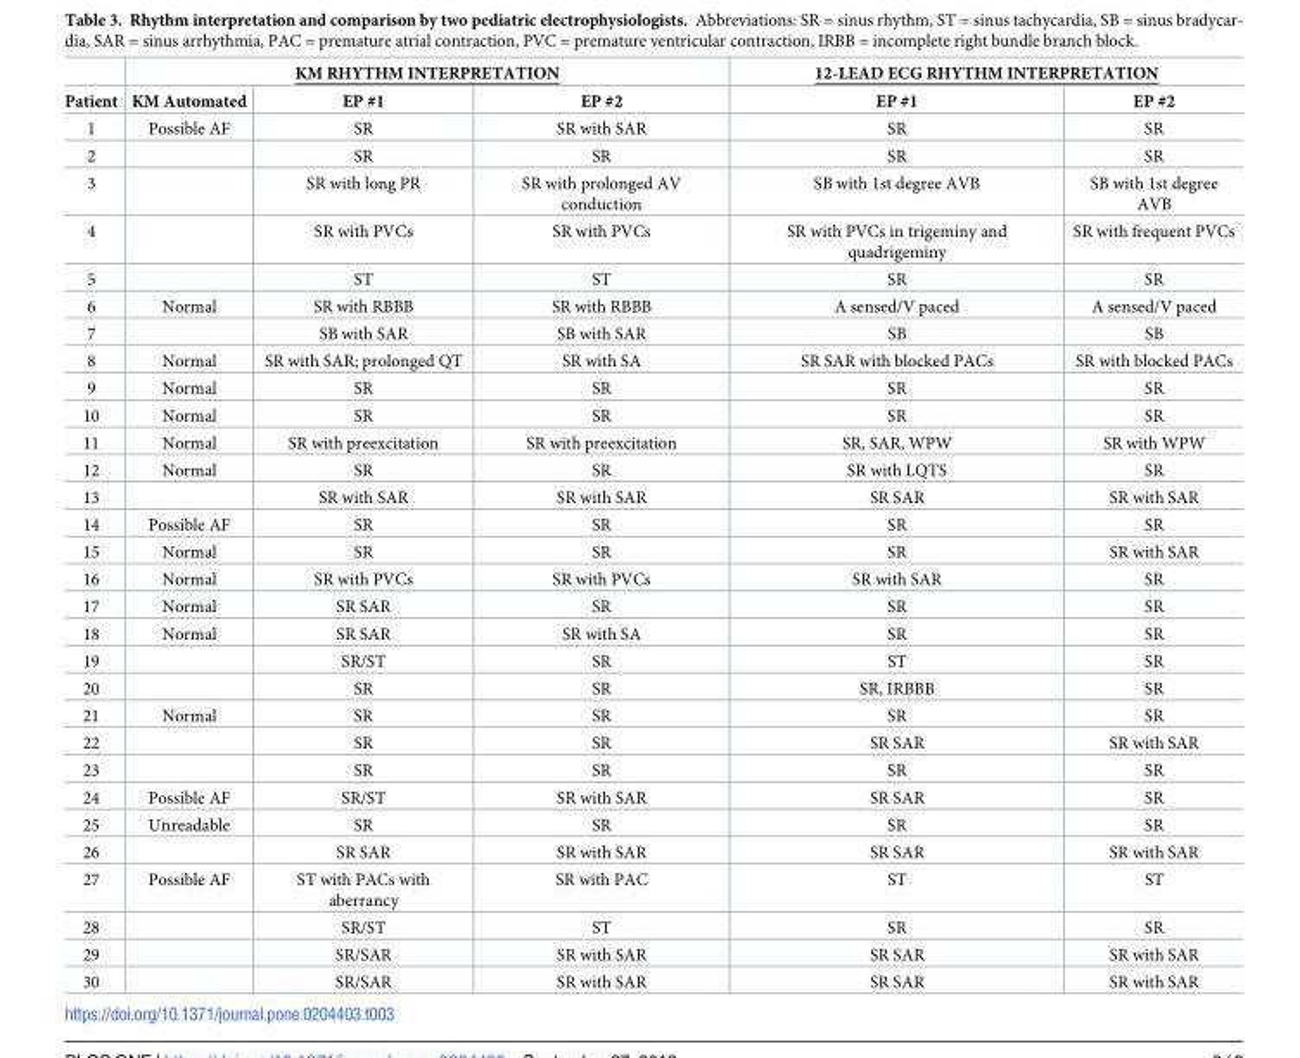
<table><thead><tr><td rowspan="2">Patient</td><td colspan="3">KM RHYTHM INTERPRETATION</td><td colspan="2">12-LEAD ECG RHYTHM INTERPRETATION</td></tr><tr><td>KM Automated</td><td>EP #1</td><td>EP #2</td><td>EP #1</td><td>EP #2</td></tr></thead><tbody><tr><td>1</td><td>Possible AF</td><td>SR</td><td>SR with SAR</td><td>SR</td><td>SR</td></tr><tr><td>2</td><td></td><td>SR</td><td>SR</td><td>SR</td><td>SR</td></tr><tr><td>3</td><td></td><td>SR with long PR</td><td>SR with prolonged AV conduction</td><td>SB with 1st degree AVB</td><td>SB with 1st degree AVB</td></tr><tr><td>4</td><td></td><td>SR with PVCs</td><td>SR with PVCs</td><td>SR with PVCs in trigeminy and quadrigeminy</td><td>SR with frequent PVCs</td></tr><tr><td>5</td><td></td><td>ST</td><td>ST</td><td>SR</td><td>SR</td></tr><tr><td>6</td><td>Normal</td><td>SR with RBBB</td><td>SR with RBBB</td><td>A sensed/V paced</td><td>A sensed/V paced</td></tr><tr><td>7</td><td></td><td>SB with SAR</td><td>SB with SAR</td><td>SB</td><td>SB</td></tr><tr><td>8</td><td>Normal</td><td>SR with SAR; prolonged QT</td><td>SR with SA</td><td>SR SAR with blocked PACs</td><td>SR with blocked PACs</td></tr><tr><td>9</td><td>Normal</td><td>SR</td><td>SR</td><td>SR</td><td>SR</td></tr><tr><td>10</td><td>Normal</td><td>SR</td><td>SR</td><td>SR</td><td>SR</td></tr><tr><td>11</td><td>Normal</td><td>SR with preexcitation</td><td>SR with preexcitation</td><td>SR, SAR, WPW</td><td>SR with WPW</td></tr><tr><td>12</td><td>Normal</td><td>SR</td><td>SR</td><td>SR with LQTS</td><td>SR</td></tr><tr><td>13</td><td></td><td>SR with SAR</td><td>SR with SAR</td><td>SR SAR</td><td>SR with SAR</td></tr><tr><td>14</td><td>Possible AF</td><td>SR</td><td>SR</td><td>SR</td><td>SR</td></tr><tr><td>15</td><td>Normal</td><td>SR</td><td>SR</td><td>SR</td><td>SR with SAR</td></tr><tr><td>16</td><td>Normal</td><td>SR with PVCs</td><td>SR with PVCs</td><td>SR with SAR</td><td>SR</td></tr><tr><td>17</td><td>Normal</td><td>SR SAR</td><td>SR</td><td>SR</td><td>SR</td></tr><tr><td>18</td><td>Normal</td><td>SR SAR</td><td>SR with SA</td><td>SR</td><td>SR</td></tr><tr><td>19</td><td></td><td>SR/ST</td><td>SR</td><td>ST</td><td>SR</td></tr><tr><td>20</td><td></td><td>SR</td><td>SR</td><td>SR, IRBBB</td><td>SR</td></tr><tr><td>21</td><td>Normal</td><td>SR</td><td>SR</td><td>SR</td><td>SR</td></tr><tr><td>22</td><td></td><td>SR</td><td>SR</td><td>SR SAR</td><td>SR with SAR</td></tr><tr><td>23</td><td></td><td>SR</td><td>SR</td><td>SR</td><td>SR</td></tr><tr><td>24</td><td>Possible AF</td><td>SR/ST</td><td>SR with SAR</td><td>SR SAR</td><td>SR</td></tr><tr><td>25</td><td>Unreadable</td><td>SR</td><td>SR</td><td>SR</td><td>SR</td></tr><tr><td>26</td><td></td><td>SR SAR</td><td>SR with SAR</td><td>SR SAR</td><td>SR with SAR</td></tr><tr><td>27</td><td>Possible AF</td><td>ST with PACs with aberrancy</td><td>SR with PAC</td><td>ST</td><td>ST</td></tr><tr><td>28</td><td></td><td>SR/ST</td><td>ST</td><td>SR</td><td>SR</td></tr><tr><td>29</td><td></td><td>SR/SAR</td><td>SR with SAR</td><td>SR SAR</td><td>SR with SAR</td></tr><tr><td>30</td><td></td><td>SR/SAR</td><td>SR with SAR</td><td>SR SAR</td><td>SR with SAR</td></tr></tbody></table>